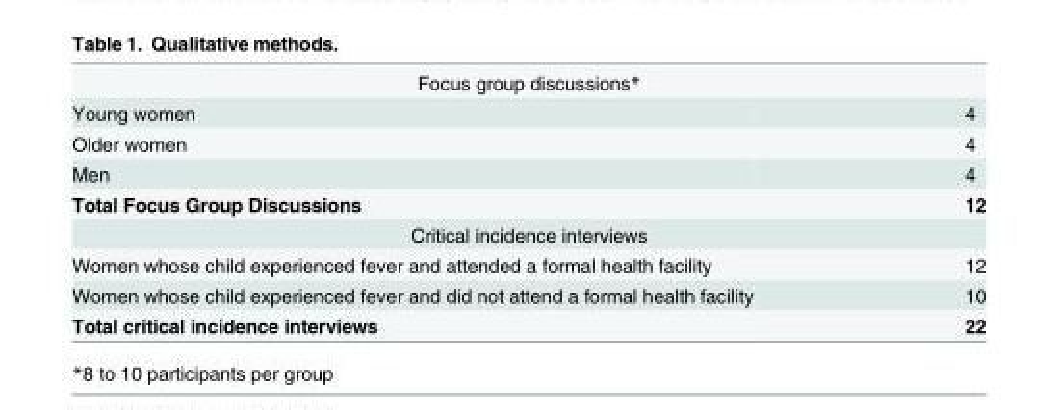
<table><tbody><tr><td colspan="2">Focus group discussions*</td></tr><tr><td>Young women</td><td>4</td></tr><tr><td>Older women</td><td>4</td></tr><tr><td>Men</td><td>4</td></tr><tr><td>Total Focus Group Discussions</td><td>12</td></tr><tr><td colspan="2">Critical incidence interviews</td></tr><tr><td>Women whose child experienced fever and attended a formal health facility</td><td>12</td></tr><tr><td>Women whose child experienced fever and did not attend a formal health facility</td><td>10</td></tr><tr><td>Total critical incidence interviews</td><td>22</td></tr></tbody></table>